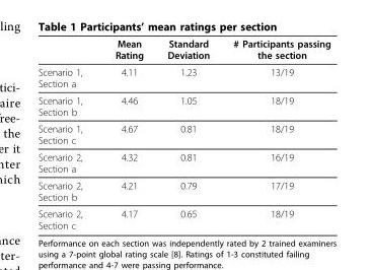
<table><thead><tr><td></td><td>Mean Rating</td><td>Standard Deviation</td><td># Participants passing the section</td></tr></thead><tbody><tr><td>Scenario 1, Section a</td><td>4.11</td><td>1.23</td><td>13/19</td></tr><tr><td>Scenario 1, Section b</td><td>4.46</td><td>1.05</td><td>18/19</td></tr><tr><td>Scenario 1, Section c</td><td>4.67</td><td>0.81</td><td>18/19</td></tr><tr><td>Scenario 2, Section a</td><td>4.32</td><td>0.81</td><td>16/19</td></tr><tr><td>Scenario 2, Section b</td><td>4.21</td><td>0.79</td><td>17/19</td></tr><tr><td>Scenario 2, Section c</td><td>4.17</td><td>0.65</td><td>18/19</td></tr></tbody></table>